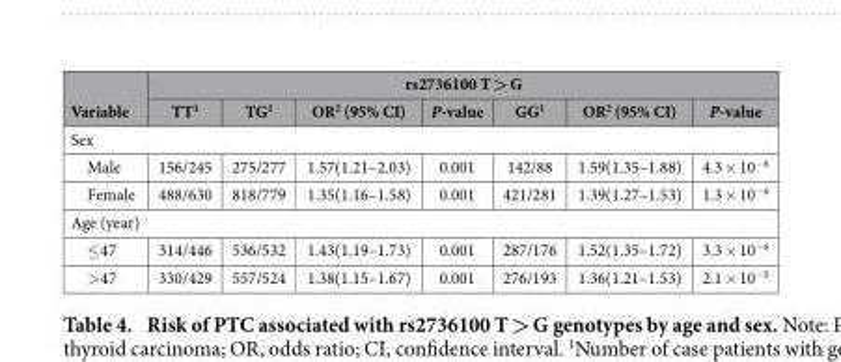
<table><thead><tr><td rowspan="2">Variable</td><td colspan="7">rs2736100 T &gt; G</td></tr><tr><td>TT<sup>1</sup></td><td>TG<sup>1</sup></td><td>OR<sup>2</sup> (95% CI)</td><td>P-value</td><td>GG<sup>1</sup></td><td>OR<sup>2</sup> (95% CI)</td><td>P-value</td></tr></thead><tbody><tr><td colspan="8">Sex</td></tr><tr><td>Male</td><td>156/245</td><td>275/277</td><td>1.57(1.21–2.03)</td><td>0.001</td><td>142/88</td><td>1.59(1.35–1.88)</td><td>4.3 × 10<sup>−6</sup></td></tr><tr><td>Female</td><td>488/630</td><td>818/779</td><td>1.35(1.16–1.58)</td><td>0.001</td><td>421/281</td><td>1.39(1.27–1.53)</td><td>1.3 × 10<sup>−6</sup></td></tr><tr><td colspan="8">Age (year)</td></tr><tr><td>≤ 47</td><td>314/446</td><td>536/532</td><td>1.43(1.19–1.73)</td><td>0.001</td><td>287/176</td><td>1.52(1.35–1.72)</td><td>3.3 × 10<sup>−6</sup></td></tr><tr><td>&gt; 47</td><td>330/429</td><td>557/524</td><td>1.38(1.15–1.67)</td><td>0.001</td><td>276/193</td><td>1.36(1.21–1.53)</td><td>2.1 × 10<sup>−5</sup></td></tr></tbody></table>